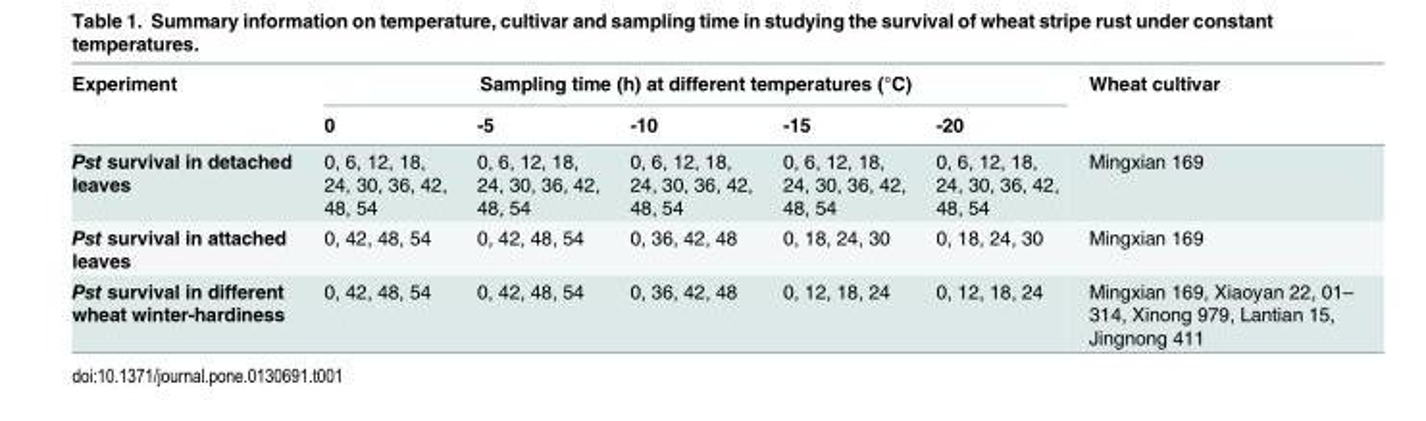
<table><thead><tr><td rowspan="2">Experiment</td><td colspan="5">Sampling time (h) at different temperatures (°C)</td><td rowspan="2">Wheat cultivar</td></tr><tr><td>0</td><td>-5</td><td>-10</td><td>-15</td><td>-20</td></tr></thead><tbody><tr><td>Pst survival in detached leaves</td><td>0, 6, 12, 18, 24, 30, 36, 42, 48, 54</td><td>0, 6, 12, 18, 24, 30, 36, 42, 48, 54</td><td>0, 6, 12, 18, 24, 30, 36, 42, 48, 54</td><td>0, 6, 12, 18, 24, 30, 36, 42, 48, 54</td><td>0, 6, 12, 18, 24, 30, 36, 42, 48, 54</td><td>Mingxian 169</td></tr><tr><td>Pst survival in attached leaves</td><td>0, 42, 48, 54</td><td>0, 42, 48, 54</td><td>0, 36, 42, 48</td><td>0, 18, 24, 30</td><td>0, 18, 24, 30</td><td>Mingxian 169</td></tr><tr><td>Pst survival in different wheat winter-hardiness</td><td>0, 42, 48, 54</td><td>0, 42, 48, 54</td><td>0, 36, 42, 48</td><td>0, 12, 18, 24</td><td>0, 12, 18, 24</td><td>Mingxian 169, Xiaoyan 22, 01– 314, Xinong 979, Lantian 15, Jingnong 411</td></tr></tbody></table>